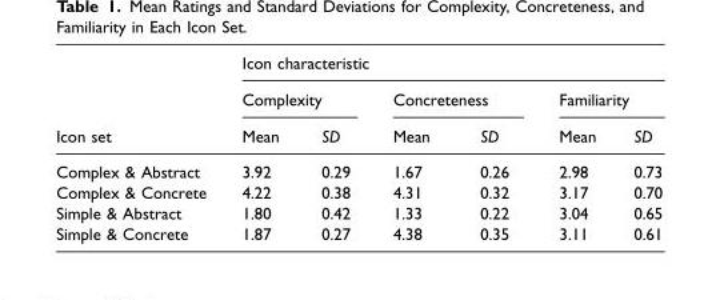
<table><thead><tr><td rowspan="3">Icon set</td><td colspan="6">Icon characteristic</td></tr><tr><td colspan="2">Complexity</td><td colspan="2">Concreteness</td><td colspan="2">Familiarity</td></tr><tr><td>Mean</td><td>SD</td><td>Mean</td><td>SD</td><td>Mean</td><td>SD</td></tr></thead><tbody><tr><td>Complex &amp; Abstract</td><td>3.92</td><td>0.29</td><td>1.67</td><td>0.26</td><td>2.98</td><td>0.73</td></tr><tr><td>Complex &amp; Concrete</td><td>4.22</td><td>0.38</td><td>4.31</td><td>0.32</td><td>3.17</td><td>0.70</td></tr><tr><td>Simple &amp; Abstract</td><td>1.80</td><td>0.42</td><td>1.33</td><td>0.22</td><td>3.04</td><td>0.65</td></tr><tr><td>Simple &amp; Concrete</td><td>1.87</td><td>0.27</td><td>4.38</td><td>0.35</td><td>3.11</td><td>0.61</td></tr></tbody></table>